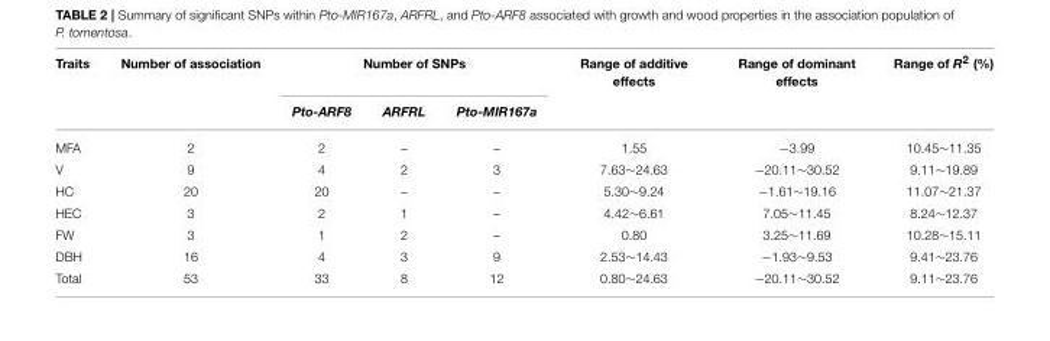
<table><thead><tr><td rowspan="2">Traits</td><td rowspan="2">Number of association</td><td colspan="3">Number of SNPs</td><td rowspan="2">Range of additive effects</td><td rowspan="2">Range of dominant effects</td><td rowspan="2">Range of R<sup>2</sup> (%)</td></tr><tr><td>Pto-ARF8</td><td>ARFRL</td><td>Pto-MIR167a</td></tr></thead><tbody><tr><td>MFA</td><td>2</td><td>2</td><td>–</td><td>–</td><td>1.55</td><td>−3.99</td><td>10.45∼11.35</td></tr><tr><td>V</td><td>9</td><td>4</td><td>2</td><td>3</td><td>7.63∼24.63</td><td>−20.11∼30.52</td><td>9.11∼19.89</td></tr><tr><td>HC</td><td>20</td><td>20</td><td>–</td><td>–</td><td>5.30∼9.24</td><td>−1.61∼19.16</td><td>11.07∼21.37</td></tr><tr><td>HEC</td><td>3</td><td>2</td><td>1</td><td>–</td><td>4.42∼6.61</td><td>7.05∼11.45</td><td>8.24∼12.37</td></tr><tr><td>FW</td><td>3</td><td>1</td><td>2</td><td>–</td><td>0.80</td><td>3.25∼11.69</td><td>10.28∼15.11</td></tr><tr><td>DBH</td><td>16</td><td>4</td><td>3</td><td>9</td><td>2.53∼14.43</td><td>−1.93∼9.53</td><td>9.41∼23.76</td></tr><tr><td>Total</td><td>53</td><td>33</td><td>8</td><td>12</td><td>0.80∼24.63</td><td>−20.11∼30.52</td><td>9.11∼23.76</td></tr></tbody></table>